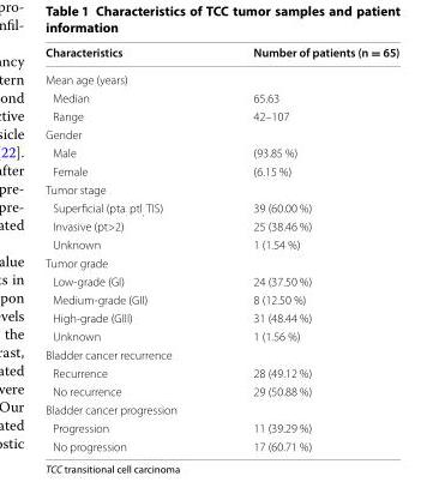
<table><thead><tr><td>Characteristics</td><td>Number of patients (n = 65)</td></tr></thead><tbody><tr><td colspan="2">Mean age (years)</td></tr><tr><td>Median</td><td>65.63</td></tr><tr><td>Range</td><td>42–107</td></tr><tr><td colspan="2">Gender</td></tr><tr><td>Male</td><td>(93.85 %)</td></tr><tr><td>Female</td><td>(6.15 %)</td></tr><tr><td colspan="2">Tumor stage</td></tr><tr><td>Superficial (pta<sub>:</sub> ptl<sub>,</sub> TIS)</td><td>39 (60.00 %)</td></tr><tr><td>Invasive (pt&gt;2)</td><td>25 (38.46 %)</td></tr><tr><td>Unknown</td><td>1 (1.54 %)</td></tr><tr><td colspan="2">Tumor grade</td></tr><tr><td>Low‑grade (GI)</td><td>24 (37.50 %)</td></tr><tr><td>Medium‑grade (GII)</td><td>8 (12.50 %)</td></tr><tr><td>High‑grade (GIII)</td><td>31 (48.44 %)</td></tr><tr><td>Unknown</td><td>1 (1.56 %)</td></tr><tr><td colspan="2">Bladder cancer recurrence</td></tr><tr><td>Recurrence</td><td>28 (49.12 %)</td></tr><tr><td>No recurrence</td><td>29 (50.88 %)</td></tr><tr><td colspan="2">Bladder cancer progression</td></tr><tr><td>Progression</td><td>11 (39.29 %)</td></tr><tr><td>No progression</td><td>17 (60.71 %)</td></tr></tbody></table>